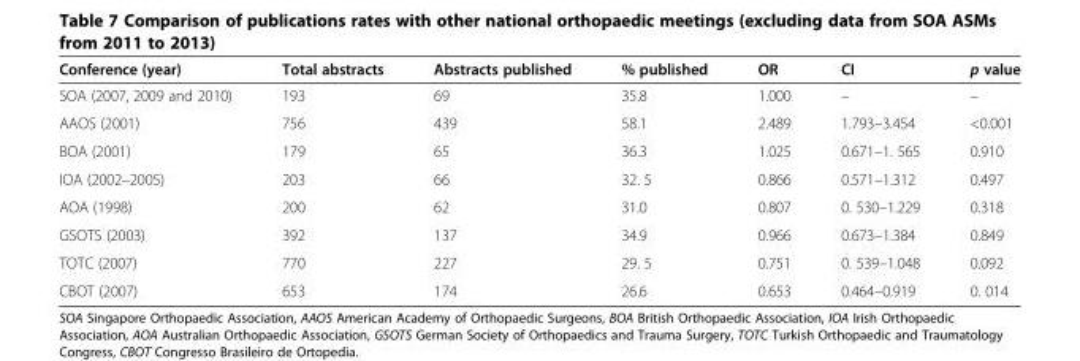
<table><thead><tr><td>Conference (year)</td><td>Total abstracts</td><td>Abstracts published</td><td>% published</td><td>OR</td><td>CI</td><td>p value</td></tr></thead><tbody><tr><td>SOA (2007, 2009 and 2010)</td><td>193</td><td>69</td><td>35.8</td><td>1.000</td><td>–</td><td>–</td></tr><tr><td>AAOS (2001)</td><td>756</td><td>439</td><td>58.1</td><td>2.489</td><td>1.793–3.454</td><td>&lt;0.001</td></tr><tr><td>BOA (2001)</td><td>179</td><td>65</td><td>36.3</td><td>1.025</td><td>0.671–1. 565</td><td>0.910</td></tr><tr><td>IOA (2002–2005)</td><td>203</td><td>66</td><td>32. 5</td><td>0.866</td><td>0.571–1.312</td><td>0.497</td></tr><tr><td>AOA (1998)</td><td>200</td><td>62</td><td>31.0</td><td>0.807</td><td>0. 530–1.229</td><td>0.318</td></tr><tr><td>GSOTS (2003)</td><td>392</td><td>137</td><td>34.9</td><td>0.966</td><td>0.673–1.384</td><td>0.849</td></tr><tr><td>TOTC (2007)</td><td>770</td><td>227</td><td>29. 5</td><td>0.751</td><td>0. 539–1.048</td><td>0.092</td></tr><tr><td>CBOT (2007)</td><td>653</td><td>174</td><td>26.6</td><td>0.653</td><td>0.464–0.919</td><td>0. 014</td></tr></tbody></table>